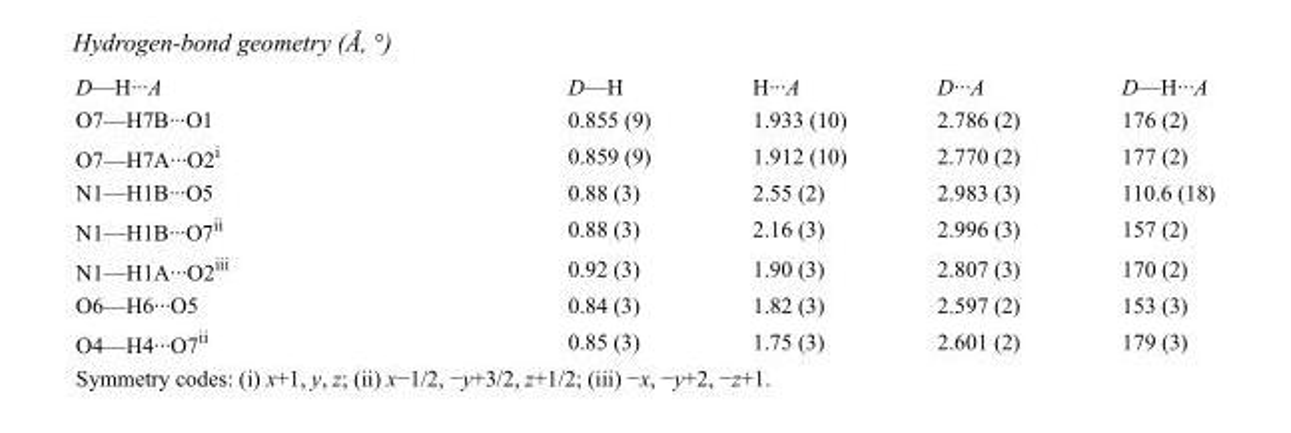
<table><tbody><tr><td>D—H···A</td><td>D—H</td><td>H···A</td><td>D···A</td><td>D—H···A</td></tr><tr><td>O7—H7B···O1</td><td>0.855 (9)</td><td>1.933 (10)</td><td>2.786 (2)</td><td>176 (2)</td></tr><tr><td>O7—H7A···O2<sup>i</sup></td><td>0.859 (9)</td><td>1.912 (10)</td><td>2.770 (2)</td><td>177 (2)</td></tr><tr><td>N1—H1B···O5</td><td>0.88 (3)</td><td>2.55 (2)</td><td>2.983 (3)</td><td>110.6 (18)</td></tr><tr><td>N1—H1B···O7<sup>ii</sup></td><td>0.88 (3)</td><td>2.16 (3)</td><td>2.996 (3)</td><td>157 (2)</td></tr><tr><td>N1—H1A···O2<sup>iii</sup></td><td>0.92 (3)</td><td>1.90 (3)</td><td>2.807 (3)</td><td>170 (2)</td></tr><tr><td>O6—H6···O5</td><td>0.84 (3)</td><td>1.82 (3)</td><td>2.597 (2)</td><td>153 (3)</td></tr><tr><td>O4—H4···O7<sup>ii</sup></td><td>0.85 (3)</td><td>1.75 (3)</td><td>2.601 (2)</td><td>179 (3)</td></tr></tbody></table>